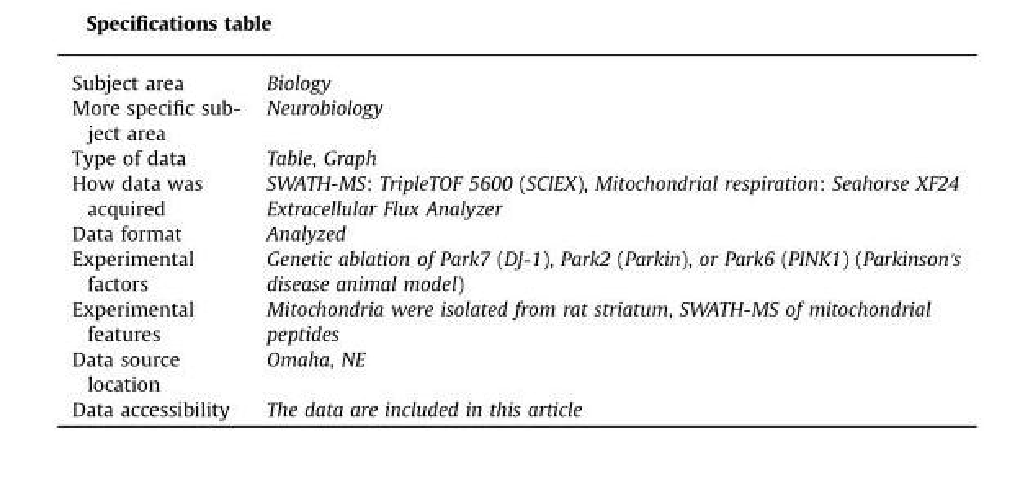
<table><tbody><tr><td>Subject area</td><td>Biology</td></tr><tr><td>More specific sub- ject area</td><td>Neurobiology</td></tr><tr><td>Type of data</td><td>Table, Graph</td></tr><tr><td>How data was acquired</td><td>SWATH-MS: TripleTOF 5600 (SCIEX), Mitochondrial respiration: Seahorse XF24 Extracellular Flux Analyzer</td></tr><tr><td>Data format</td><td>Analyzed</td></tr><tr><td>Experimental factors</td><td>Genetic ablation of Park7 (DJ-1), Park2 (Parkin), or Park6 (PINK1) (Parkinson&#x27;s disease animal model)</td></tr><tr><td>Experimental features</td><td>Mitochondria were isolated from rat striatum, SWATH-MS of mitochondrial peptides</td></tr><tr><td>Data source location</td><td>Omaha, NE</td></tr><tr><td>Data accessibility</td><td>The data are included in this article</td></tr></tbody></table>